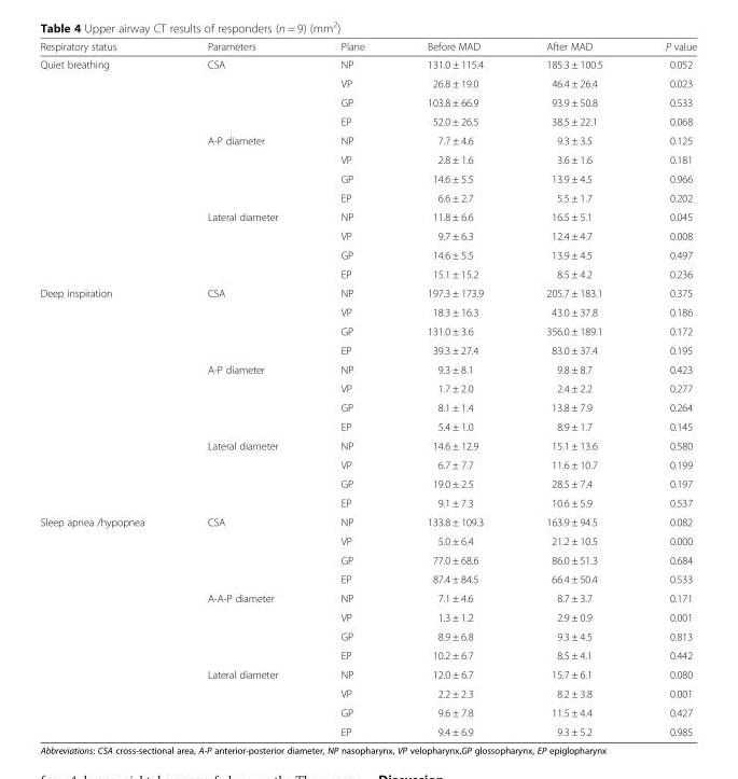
<table><thead><tr><td>Respiratory status</td><td>Parameters</td><td>Plane</td><td>Before MAD</td><td>After MAD</td><td>P value</td></tr></thead><tbody><tr><td rowspan="12">Quiet breathing</td><td rowspan="4">CSA</td><td>NP</td><td>131.0 ± 115.4</td><td>185.3 ± 100.5</td><td>0.052</td></tr><tr><td>VP</td><td>26.8 ± 19.0</td><td>46.4 ± 26.4</td><td>0.023</td></tr><tr><td>GP</td><td>103.8 ± 66.9</td><td>93.9 ± 50.8</td><td>0.533</td></tr><tr><td>EP</td><td>52.0 ± 26.5</td><td>38.5 ± 22.1</td><td>0.068</td></tr><tr><td rowspan="4">A-P diameter</td><td>NP</td><td>7.7 ± 4.6</td><td>9.3 ± 3.5</td><td>0.125</td></tr><tr><td>VP</td><td>2.8 ± 1.6</td><td>3.6 ± 1.6</td><td>0.181</td></tr><tr><td>GP</td><td>14.6 ± 5.5</td><td>13.9 ± 4.5</td><td>0.966</td></tr><tr><td>EP</td><td>6.6 ± 2.7</td><td>5.5 ± 1.7</td><td>0.202</td></tr><tr><td rowspan="4">Lateral diameter</td><td>NP</td><td>11.8 ± 6.6</td><td>16.5 ± 5.1</td><td>0.045</td></tr><tr><td>VP</td><td>9.7 ± 6.3</td><td>12.4 ± 4.7</td><td>0.008</td></tr><tr><td>GP</td><td>14.6 ± 5.5</td><td>13.9 ± 4.5</td><td>0.497</td></tr><tr><td>EP</td><td>15.1 ± 15.2</td><td>8.5 ± 4.2</td><td>0.236</td></tr><tr><td rowspan="12">Deep inspiration</td><td rowspan="4">CSA</td><td>NP</td><td>197.3 ± 173.9</td><td>205.7 ± 183.1</td><td>0.375</td></tr><tr><td>VP</td><td>18.3 ± 16.3</td><td>43.0 ± 37.8</td><td>0.186</td></tr><tr><td>GP</td><td>131.0 ± 3.6</td><td>356.0 ± 189.1</td><td>0.172</td></tr><tr><td>EP</td><td>39.3 ± 27.4</td><td>83.0 ± 37.4</td><td>0.195</td></tr><tr><td rowspan="4">A-P diameter</td><td>NP</td><td>9.3 ± 8.1</td><td>9.8 ± 8.7</td><td>0.423</td></tr><tr><td>VP</td><td>1.7 ± 2.0</td><td>2.4 ± 2.2</td><td>0.277</td></tr><tr><td>GP</td><td>8.1 ± 1.4</td><td>13.8 ± 7.9</td><td>0.264</td></tr><tr><td>EP</td><td>5.4 ± 1.0</td><td>8.9 ± 1.7</td><td>0.145</td></tr><tr><td rowspan="4">Lateral diameter</td><td>NP</td><td>14.6 ± 12.9</td><td>15.1 ± 13.6</td><td>0.580</td></tr><tr><td>VP</td><td>6.7 ± 7.7</td><td>11.6 ± 10.7</td><td>0.199</td></tr><tr><td>GP</td><td>19.0 ± 2.5</td><td>28.5 ± 7.4</td><td>0.197</td></tr><tr><td>EP</td><td>9.1 ± 7.3</td><td>10.6 ± 5.9</td><td>0.537</td></tr><tr><td rowspan="12">Sleep apnea /hypopnea</td><td rowspan="4">CSA</td><td>NP</td><td>133.8 ± 109.3</td><td>163.9 ± 94.5</td><td>0.082</td></tr><tr><td>VP</td><td>5.0 ± 6.4</td><td>21.2 ± 10.5</td><td>0.000</td></tr><tr><td>GP</td><td>77.0 ± 68.6</td><td>86.0 ± 51.3</td><td>0.684</td></tr><tr><td>EP</td><td>87.4 ± 84.5</td><td>66.4 ± 50.4</td><td>0.533</td></tr><tr><td rowspan="4">A-A-P diameter</td><td>NP</td><td>7.1 ± 4.6</td><td>8.7 ± 3.7</td><td>0.171</td></tr><tr><td>VP</td><td>1.3 ± 1.2</td><td>2.9 ± 0.9</td><td>0.001</td></tr><tr><td>GP</td><td>8.9 ± 6.8</td><td>9.3 ± 4.5</td><td>0.813</td></tr><tr><td>EP</td><td>10.2 ± 6.7</td><td>8.5 ± 4.1</td><td>0.442</td></tr><tr><td rowspan="4">Lateral diameter</td><td>NP</td><td>12.0 ± 6.7</td><td>15.7 ± 6.1</td><td>0.080</td></tr><tr><td>VP</td><td>2.2 ± 2.3</td><td>8.2 ± 3.8</td><td>0.001</td></tr><tr><td>GP</td><td>9.6 ± 7.8</td><td>11.5 ± 4.4</td><td>0.427</td></tr><tr><td>EP</td><td>9.4 ± 6.9</td><td>9.3 ± 5.2</td><td>0.985</td></tr></tbody></table>